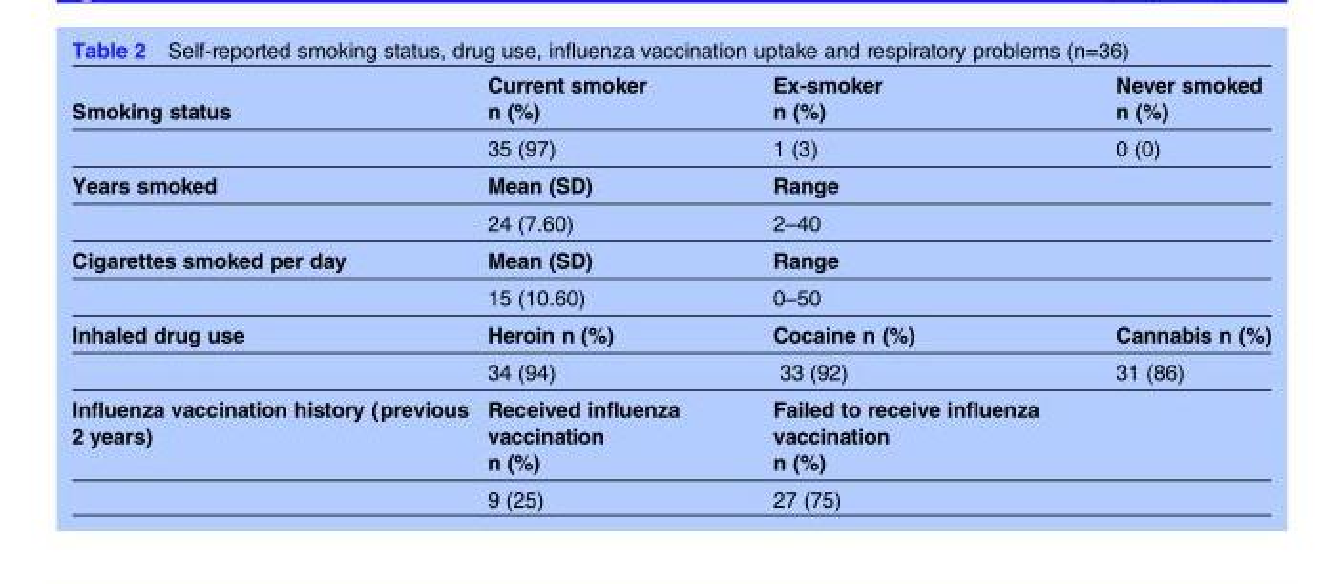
<table><thead><tr><td>Smoking status</td><td>Current smoker n (%)</td><td>Ex-smoker n (%)</td><td>Never smoked n (%)</td></tr></thead><tbody><tr><td></td><td>35 (97)</td><td>1 (3)</td><td>0 (0)</td></tr><tr><td rowspan="2">Years smoked</td><td>Mean (SD)</td><td>Range</td><td></td></tr><tr><td>24 (7.60)</td><td>2–40</td><td></td></tr><tr><td rowspan="2">Cigarettes smoked per day</td><td>Mean (SD)</td><td>Range</td><td></td></tr><tr><td>15 (10.60)</td><td>0–50</td><td></td></tr><tr><td rowspan="2">Inhaled drug use</td><td>Heroin n (%)</td><td>Cocaine n (%)</td><td>Cannabis n (%)</td></tr><tr><td>34 (94)</td><td>33 (92)</td><td>31 (86)</td></tr><tr><td rowspan="2">Influenza vaccination history (previous 2 years)</td><td>Received influenza vaccination n (%)</td><td>Failed to receive influenza vaccination n (%)</td><td></td></tr><tr><td>9 (25)</td><td>27 (75)</td><td></td></tr></tbody></table>